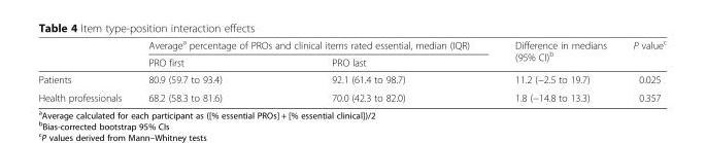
<table><thead><tr><td rowspan="2"></td><td colspan="2">Average<sup>a</sup> percentage of PROs and clinical items rated essential, median (IQR)</td><td rowspan="2">Difference in medians (95% CI)<sup>b</sup></td><td rowspan="2">P value<sup>c</sup></td></tr><tr><td>PRO first</td><td>PRO last</td></tr></thead><tbody><tr><td>Patients</td><td>80.9 (59.7 to 93.4)</td><td>92.1 (61.4 to 98.7)</td><td>11.2 (−2.5 to 19.7)</td><td>0.025</td></tr><tr><td>Health professionals</td><td>68.2 (58.3 to 81.6)</td><td>70.0 (42.3 to 82.0)</td><td>1.8 (−14.8 to 13.3)</td><td>0.357</td></tr></tbody></table>